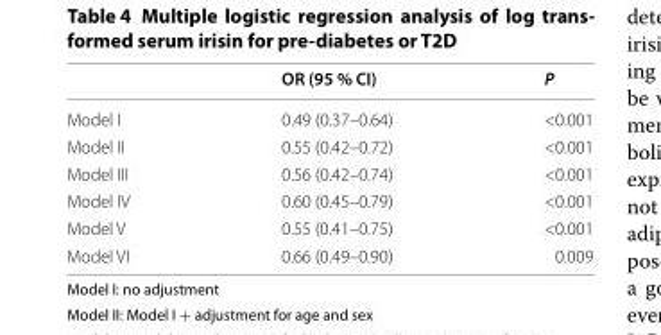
<table><thead><tr><td></td><td>OR (95 % CI)</td><td>P</td></tr></thead><tbody><tr><td>Model I</td><td>0.49 (0.37–0.64)</td><td>&lt;0.001</td></tr><tr><td>Model II</td><td>0.55 (0.42–0.72)</td><td>&lt;0.001</td></tr><tr><td>Model III</td><td>0.56 (0.42–0.74)</td><td>&lt;0.001</td></tr><tr><td>Model IV</td><td>0.60 (0.45–0.79)</td><td>&lt;0.001</td></tr><tr><td>Model V</td><td>0.55 (0.41–0.75)</td><td>&lt;0.001</td></tr><tr><td>Model VI</td><td>0.66 (0.49–0.90)</td><td>0.009</td></tr></tbody></table>